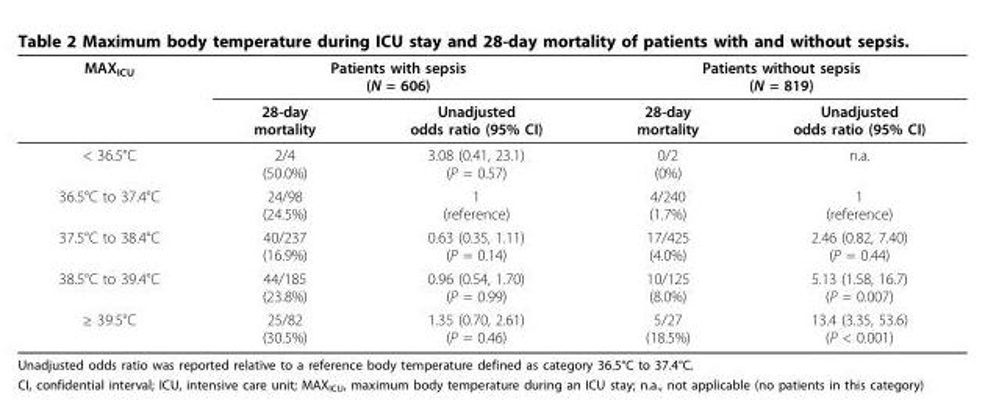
<table><thead><tr><td rowspan="2">MAX<sub>ICU</sub></td><td colspan="2">Patients with sepsis (N = 606)</td><td colspan="2">Patients without sepsis (N = 819)</td></tr><tr><td>28-day mortality</td><td>Unadjusted odds ratio (95% CI)</td><td>28-day mortality</td><td>Unadjusted odds ratio (95% CI)</td></tr></thead><tbody><tr><td>&lt; 36.5°C</td><td>2/4 (50.0%)</td><td>3.08 (0.41, 23.1) (P = 0.57)</td><td>0/2 (0%)</td><td>n.a.</td></tr><tr><td>36.5°C to 37.4°C</td><td>24/98 (24.5%)</td><td>1 (reference)</td><td>4/240 (1.7%)</td><td>1 (reference)</td></tr><tr><td>37.5°C to 38.4°C</td><td>40/237 (16.9%)</td><td>0.63 (0.35, 1.11) (P = 0.14)</td><td>17/425 (4.0%)</td><td>2.46 (0.82, 7.40) (P = 0.44)</td></tr><tr><td>38.5°C to 39.4°C</td><td>44/185 (23.8%)</td><td>0.96 (0.54, 1.70) (P = 0.99)</td><td>10/125 (8.0%)</td><td>5.13 (1.58, 16.7) (P = 0.007)</td></tr><tr><td>≥ 39.5°C</td><td>25/82 (30.5%)</td><td>1.35 (0.70, 2.61) (P = 0.46)</td><td>5/27 (18.5%)</td><td>13.4 (3.35, 53.6) (P &lt; 0.001)</td></tr></tbody></table>